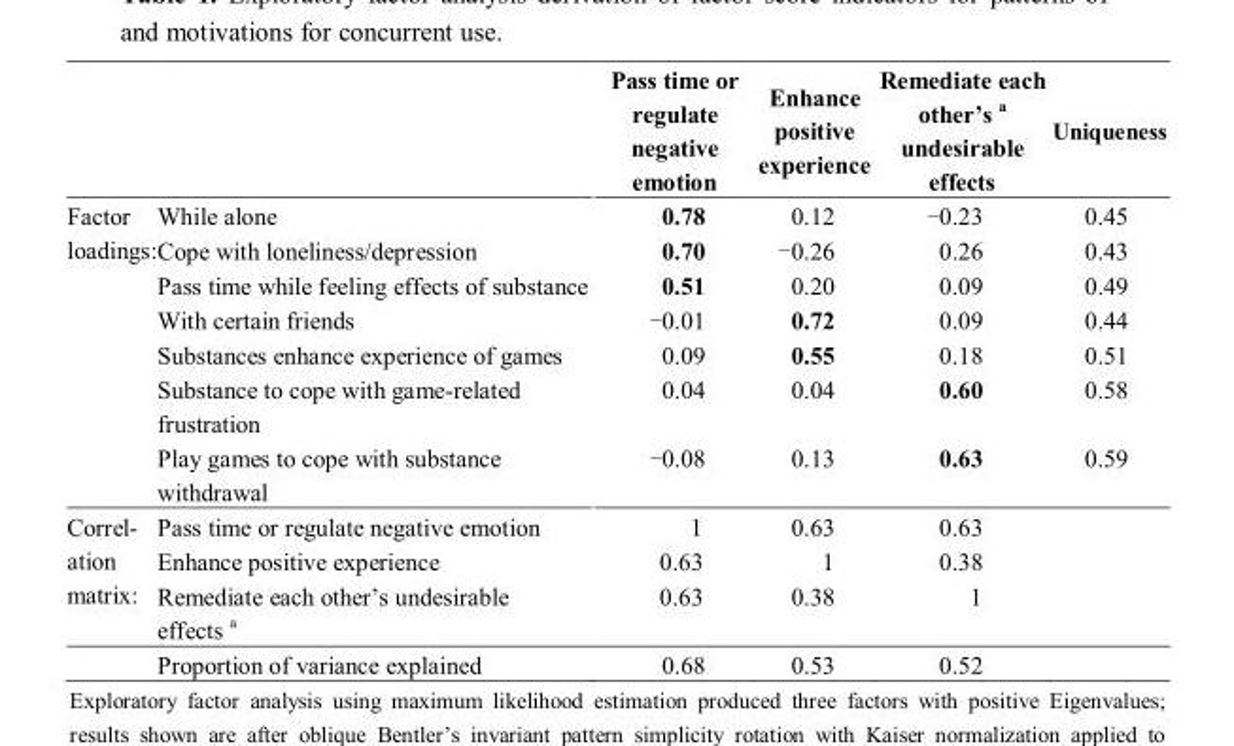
<table><thead><tr><td></td><td></td><td>Pass time or regulate negative emotion</td><td>Enhance positive experience</td><td>Remediate each other’s a undesirable effects</td><td>Uniqueness</td></tr></thead><tbody><tr><td rowspan="7">Factor loadings:</td><td>While alone</td><td>0.78</td><td>0.12</td><td>-0.23</td><td>0.45</td></tr><tr><td>Cope with loneliness/depression</td><td>0.70</td><td>-0.26</td><td>0.26</td><td>0.43</td></tr><tr><td>Pass time while feeling effects of substance</td><td>0.51</td><td>0.20</td><td>0.09</td><td>0.49</td></tr><tr><td>With certain friends</td><td>-0.01</td><td>0.72</td><td>0.09</td><td>0.44</td></tr><tr><td>Substances enhance experience of games</td><td>0.09</td><td>0.55</td><td>0.18</td><td>0.51</td></tr><tr><td>Substance to cope with game-related frustration</td><td>0.04</td><td>0.04</td><td>0.60</td><td>0.58</td></tr><tr><td>Play games to cope with substance withdrawal</td><td>-0.08</td><td>0.13</td><td>0.63</td><td>0.59</td></tr><tr><td rowspan="4">Correl- ation matrix:</td><td>Pass time or regulate negative emotion</td><td>1</td><td>0.63</td><td>0.63</td><td></td></tr><tr><td>Enhance positive experience</td><td>0.63</td><td>1</td><td>0.38</td><td></td></tr><tr><td>Remediate each other’s undesirable effects a</td><td>0.63</td><td>0.38</td><td>1</td><td></td></tr><tr><td>Proportion of variance explained</td><td>0.68</td><td>0.53</td><td>0.52</td><td></td></tr></tbody></table>